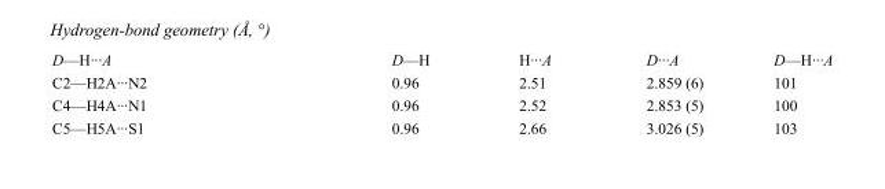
<table><tbody><tr><td>D—H···A</td><td>D—H</td><td>H···A</td><td>D···A</td><td>D—H···A</td></tr><tr><td>C2—H2A···N2</td><td>0.96</td><td>2.51</td><td>2.859 (6)</td><td>101</td></tr><tr><td>C4—H4A···N1</td><td>0.96</td><td>2.52</td><td>2.853 (5)</td><td>100</td></tr><tr><td>C5—H5A···S1</td><td>0.96</td><td>2.66</td><td>3.026 (5)</td><td>103</td></tr></tbody></table>